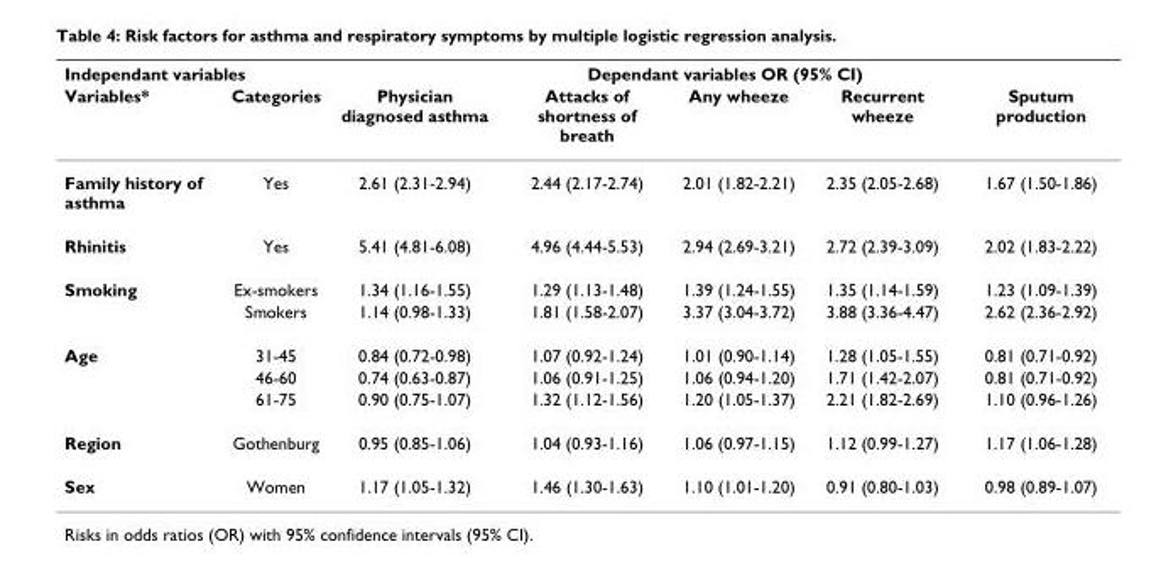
<table><thead><tr><td colspan="2">Independant variables</td><td colspan="5">Dependant variables OR (95% CI)</td></tr><tr><td>Variables*</td><td>Categories</td><td>Physician diagnosed asthma</td><td>Attacks of shortness of breath</td><td>Any wheeze</td><td>Recurrent wheeze</td><td>Sputum production</td></tr></thead><tbody><tr><td>Family history of asthma</td><td>Yes</td><td>2.61 (2.31-2.94)</td><td>2.44 (2.17-2.74)</td><td>2.01 (1.82-2.21)</td><td>2.35 (2.05-2.68)</td><td>1.67 (1.50-1.86)</td></tr><tr><td>Rhinitis</td><td>Yes</td><td>5.41 (4.81-6.08)</td><td>4.96 (4.44-5.53)</td><td>2.94 (2.69-3.21)</td><td>2.72 (2.39-3.09)</td><td>2.02 (1.83-2.22)</td></tr><tr><td rowspan="2">Smoking</td><td>Ex-smokers</td><td>1.34 (1.16-1.55)</td><td>1.29 (1.13-1.48)</td><td>1.39 (1.24-1.55)</td><td>1.35 (1.14-1.59)</td><td>1.23 (1.09-1.39)</td></tr><tr><td>Smokers</td><td>1.14 (0.98-1.33)</td><td>1.81 (1.58-2.07)</td><td>3.37 (3.04-3.72)</td><td>3.88 (3.36-4.47)</td><td>2.62 (2.36-2.92)</td></tr><tr><td rowspan="3">Age</td><td>31-45</td><td>0.84 (0.72-0.98)</td><td>1.07 (0.92-1.24)</td><td>1.01 (0.90-1.14)</td><td>1.28 (1.05-1.55)</td><td>0.81 (0.71-0.92)</td></tr><tr><td>46-60</td><td>0.74 (0.63-0.87)</td><td>1.06 (0.91-1.25)</td><td>1.06 (0.94-1.20)</td><td>1.71 (1.42-2.07)</td><td>0.81 (0.71-0.92)</td></tr><tr><td>61-75</td><td>0.90 (0.75-1.07)</td><td>1.32 (1.12-1.56)</td><td>1.20 (1.05-1.37)</td><td>2.21 (1.82-2.69)</td><td>1.10 (0.96-1.26)</td></tr><tr><td>Region</td><td>Gothenburg</td><td>0.95 (0.85-1.06)</td><td>1.04 (0.93-1.16)</td><td>1.06 (0.97-1.15)</td><td>1.12 (0.99-1.27)</td><td>1.17 (1.06-1.28)</td></tr><tr><td>Sex</td><td>Women</td><td>1.17 (1.05-1.32)</td><td>1.46 (1.30-1.63)</td><td>1.10 (1.01-1.20)</td><td>0.91 (0.80-1.03)</td><td>0.98 (0.89-1.07)</td></tr></tbody></table>